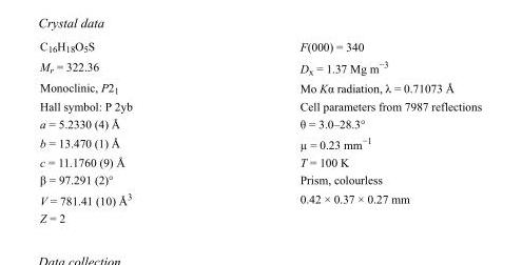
<table><tbody><tr><td>C<sub>16</sub>H<sub>18</sub>O<sub>5</sub>S</td><td>F(000) = 340</td></tr><tr><td>M<sub>r</sub> = 322.36</td><td>D<sub>x</sub> = 1.37 Mg m<sup>−3</sup></td></tr><tr><td>Monoclinic, P2<sub>1</sub></td><td>Mo Kα radiation, λ = 0.71073 Å</td></tr><tr><td>Hall symbol: P 2yb</td><td>Cell parameters from 7987 reflections</td></tr><tr><td>a = 5.2330 (4) Å</td><td>θ = 3.0–28.3°</td></tr><tr><td>b = 13.470 (1) Å</td><td>µ = 0.23 mm<sup>−1</sup></td></tr><tr><td>c = 11.1760 (9) Å</td><td>T = 100 K</td></tr><tr><td>β = 97.291 (2)°</td><td>Prism, colourless</td></tr><tr><td>V = 781.41 (10) Å<sup>3</sup></td><td>0.42 × 0.37 × 0.27 mm</td></tr><tr><td>Z = 2</td><td></td></tr></tbody></table>